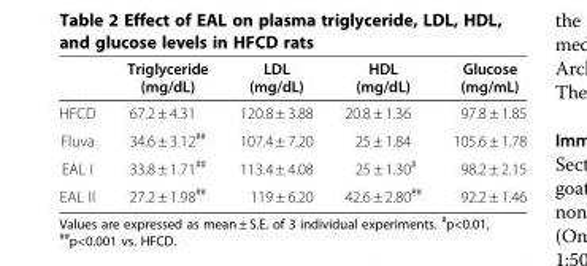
<table><thead><tr><td></td><td>Triglyceride (mg/dL)</td><td>LDL (mg/dL)</td><td>HDL (mg/dL)</td><td>Glucose (mg/mL)</td></tr></thead><tbody><tr><td>HFCD</td><td>67.2 ± 4.31</td><td>120.8 ± 3.88</td><td>20.8 ± 1.36</td><td>97.8 ± 1.85</td></tr><tr><td>Fluva</td><td>34.6 ± 3.12<sup>##</sup></td><td>107.4 ± 7.20</td><td>25 ± 1.84</td><td>105.6 ± 1.78</td></tr><tr><td>EAL I</td><td>33.8 ± 1.71<sup>##</sup></td><td>113.4 ± 4.08</td><td>25 ± 1.30<sup>#</sup></td><td>98.2 ± 2.15</td></tr><tr><td>EAL II</td><td>27.2 ± 1.98<sup>##</sup></td><td>119 ± 6.20</td><td>42.6 ± 2.80<sup>##</sup></td><td>92.2 ± 1.46</td></tr></tbody></table>